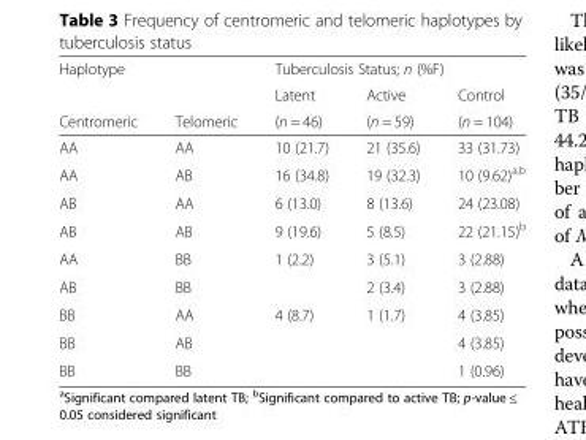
<table><thead><tr><td colspan="2">Haplotype</td><td colspan="3">Tuberculosis Status; n (%F)</td></tr><tr><td rowspan="2">Centromeric</td><td rowspan="2">Telomeric</td><td rowspan="2">Latent (n = 46)</td><td rowspan="2">Active (n = 59)</td><td rowspan="2">Control (n = 104)</td></tr><tr></tr></thead><tbody><tr><td>AA</td><td>AA</td><td>10 (21.7)</td><td>21 (35.6)</td><td>33 (31.73)</td></tr><tr><td>AA</td><td>AB</td><td>16 (34.8)</td><td>19 (32.3)</td><td>10 (9.62)<sup>a,b</sup></td></tr><tr><td>AB</td><td>AA</td><td>6 (13.0)</td><td>8 (13.6)</td><td>24 (23.08)</td></tr><tr><td>AB</td><td>AB</td><td>9 (19.6)</td><td>5 (8.5)</td><td>22 (21.15)<sup>b</sup></td></tr><tr><td>AA</td><td>BB</td><td>1 (2.2)</td><td>3 (5.1)</td><td>3 (2.88)</td></tr><tr><td>AB</td><td>BB</td><td></td><td>2 (3.4)</td><td>3 (2.88)</td></tr><tr><td>BB</td><td>AA</td><td>4 (8.7)</td><td>1 (1.7)</td><td>4 (3.85)</td></tr><tr><td>BB</td><td>AB</td><td></td><td></td><td>4 (3.85)</td></tr><tr><td>BB</td><td>BB</td><td></td><td></td><td>1 (0.96)</td></tr></tbody></table>